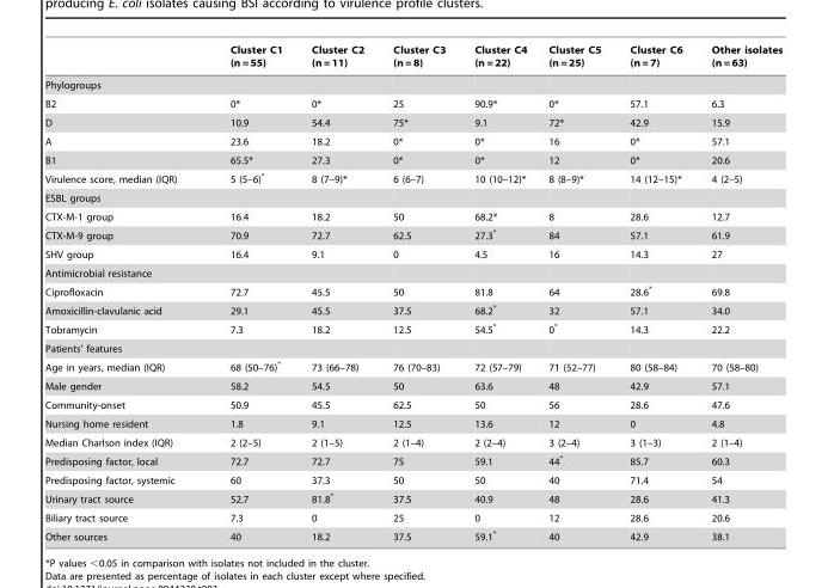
<table><thead><tr><td></td><td>Cluster C1 (n = 55)</td><td>Cluster C2 (n = 11)</td><td>Cluster C3 (n = 8)</td><td>Cluster C4 (n = 22)</td><td>Cluster C5 (n = 25)</td><td>Cluster C6 (n = 7)</td><td>Other isolates (n = 63)</td></tr></thead><tbody><tr><td colspan="8">Phylogroups</td></tr><tr><td>B2</td><td>0*</td><td>0*</td><td>25</td><td>90.9*</td><td>0*</td><td>57.1</td><td>6.3</td></tr><tr><td>D</td><td>10.9</td><td>54.4</td><td>75*</td><td>9.1</td><td>72*</td><td>42.9</td><td>15.9</td></tr><tr><td>A</td><td>23.6</td><td>18.2</td><td>0*</td><td>0*</td><td>16</td><td>0*</td><td>57.1</td></tr><tr><td>B1</td><td>65.5*</td><td>27.3</td><td>0*</td><td>0*</td><td>12</td><td>0*</td><td>20.6</td></tr><tr><td>Virulence score, median (IQR)</td><td>5 (5–6)*</td><td>8 (7–9)*</td><td>6 (6–7)</td><td>10 (10–12)*</td><td>8 (8–9)*</td><td>14 (12–15)*</td><td>4 (2–5)</td></tr><tr><td colspan="8">ESBL groups</td></tr><tr><td>CTX-M-1 group</td><td>16.4</td><td>18.2</td><td>50</td><td>68.2*</td><td>8</td><td>28.6</td><td>12.7</td></tr><tr><td>CTX-M-9 group</td><td>70.9</td><td>72.7</td><td>62.5</td><td>27.3*</td><td>84</td><td>57.1</td><td>61.9</td></tr><tr><td>SHV group</td><td>16.4</td><td>9.1</td><td>0</td><td>4.5</td><td>16</td><td>14.3</td><td>27</td></tr><tr><td colspan="8">Antimicrobial resistance</td></tr><tr><td>Ciprofloxacin</td><td>72.7</td><td>45.5</td><td>50</td><td>81.8</td><td>64</td><td>28.6*</td><td>69.8</td></tr><tr><td>Amoxicillin-clavulanic acid</td><td>29.1</td><td>45.5</td><td>37.5</td><td>68.2*</td><td>32</td><td>57.1</td><td>34.0</td></tr><tr><td>Tobramycin</td><td>7.3</td><td>18.2</td><td>12.5</td><td>54.5*</td><td>0*</td><td>14.3</td><td>22.2</td></tr><tr><td colspan="8">Patients’ features</td></tr><tr><td>Age in years, median (IQR)</td><td>68 (50–76)*</td><td>73 (66–78)</td><td>76 (70–83)</td><td>72 (57–79)</td><td>71 (52–77)</td><td>80 (58–84)</td><td>70 (58–80)</td></tr><tr><td>Male gender</td><td>58.2</td><td>54.5</td><td>50</td><td>63.6</td><td>48</td><td>42.9</td><td>57.1</td></tr><tr><td>Community-onset</td><td>50.9</td><td>45.5</td><td>62.5</td><td>50</td><td>56</td><td>28.6</td><td>47.6</td></tr><tr><td>Nursing home resident</td><td>1.8</td><td>9.1</td><td>12.5</td><td>13.6</td><td>12</td><td>0</td><td>4.8</td></tr><tr><td>Median Charlson index (IQR)</td><td>2 (2–5)</td><td>2 (1–5)</td><td>2 (1–4)</td><td>2 (2–4)</td><td>3 (2–4)</td><td>3 (1–3)</td><td>2 (1–4)</td></tr><tr><td>Predisposing factor, local</td><td>72.7</td><td>72.7</td><td>75</td><td>59.1</td><td>44*</td><td>85.7</td><td>60.3</td></tr><tr><td>Predisposing factor, systemic</td><td>60</td><td>37.3</td><td>50</td><td>50</td><td>40</td><td>71.4</td><td>54</td></tr><tr><td>Urinary tract source</td><td>52.7</td><td>81.8*</td><td>37.5</td><td>40.9</td><td>48</td><td>28.6</td><td>41.3</td></tr><tr><td>Biliary tract source</td><td>7.3</td><td>0</td><td>25</td><td>0</td><td>12</td><td>28.6</td><td>20.6</td></tr><tr><td>Other sources</td><td>40</td><td>18.2</td><td>37.5</td><td>59.1*</td><td>40</td><td>42.9</td><td>38.1</td></tr></tbody></table>